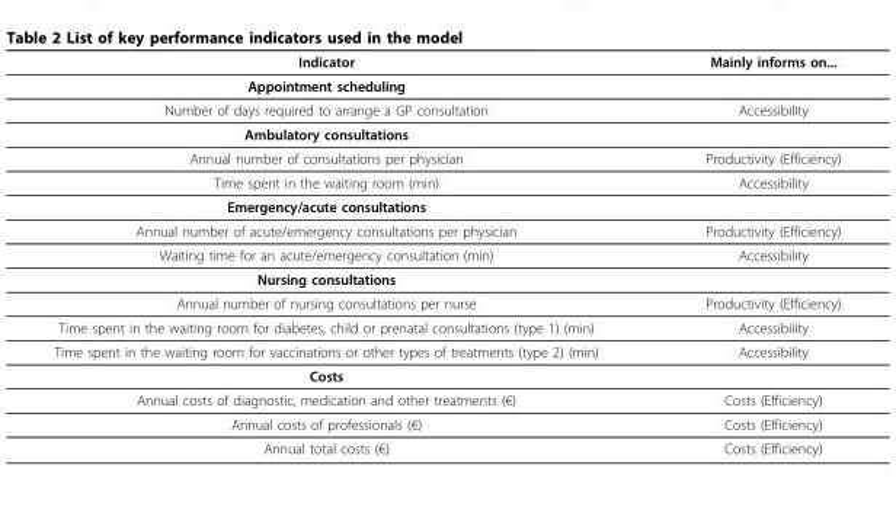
<table><thead><tr><td>Indicator</td><td>Mainly informs on...</td></tr></thead><tbody><tr><td colspan="2">Appointment scheduling</td></tr><tr><td>Number of days required to arrange a GP consultation</td><td>Accessibility</td></tr><tr><td colspan="2">Ambulatory consultations</td></tr><tr><td>Annual number of consultations per physician</td><td>Productivity (Efficiency)</td></tr><tr><td>Time spent in the waiting room (min)</td><td>Accessibility</td></tr><tr><td colspan="2">Emergency/acute consultations</td></tr><tr><td>Annual number of acute/emergency consultations per physician</td><td>Productivity (Efficiency)</td></tr><tr><td>Waiting time for an acute/emergency consultation (min)</td><td>Accessibility</td></tr><tr><td colspan="2">Nursing consultations</td></tr><tr><td>Annual number of nursing consultations per nurse</td><td>Productivity (Efficiency)</td></tr><tr><td>Time spent in the waiting room for diabetes, child or prenatal consultations (type 1) (min)</td><td>Accessibility</td></tr><tr><td>Time spent in the waiting room for vaccinations or other types of treatments (type 2) (min)</td><td>Accessibility</td></tr><tr><td colspan="2">Costs</td></tr><tr><td>Annual costs of diagnostic, medication and other treatments (€)</td><td>Costs (Efficiency)</td></tr><tr><td>Annual costs of professionals (€)</td><td>Costs (Efficiency)</td></tr><tr><td>Annual total costs (€)</td><td>Costs (Efficiency)</td></tr></tbody></table>